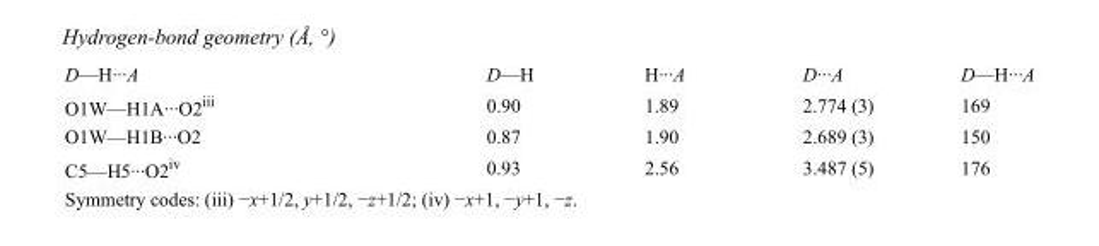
<table><tbody><tr><td>D—H···A</td><td>D—H</td><td>H···A</td><td>D···A</td><td>D—H···A</td></tr><tr><td>O1W—H1A···O2<sup>iii</sup></td><td>0.90</td><td>1.89</td><td>2.774 (3)</td><td>169</td></tr><tr><td>O1W—H1B···O2</td><td>0.87</td><td>1.90</td><td>2.689 (3)</td><td>150</td></tr><tr><td>C5—H5···O2<sup>iv</sup></td><td>0.93</td><td>2.56</td><td>3.487 (5)</td><td>176</td></tr></tbody></table>